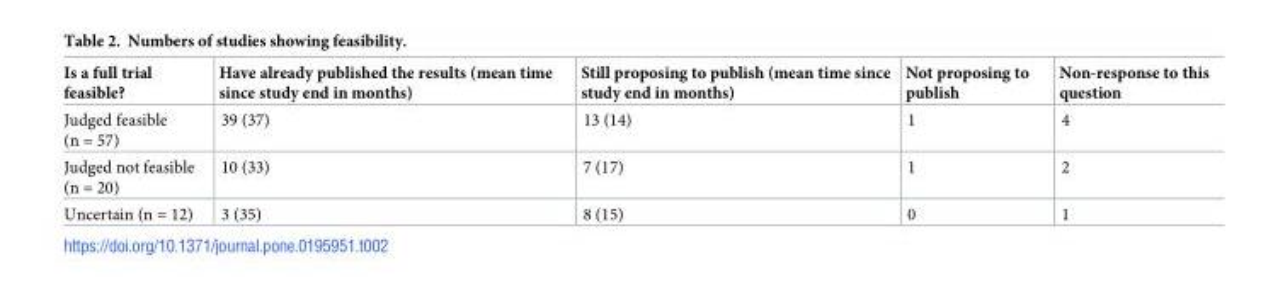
<table><thead><tr><td>Is a full trial feasible?</td><td>Have already published the results (mean time since study end in months)</td><td>Still proposing to publish (mean time since study end in months)</td><td>Not proposing to publish</td><td>Non-response to this question</td></tr></thead><tbody><tr><td>Judged feasible (n = 57)</td><td>39 (37)</td><td>13 (14)</td><td>1</td><td>4</td></tr><tr><td>Judged not feasible (n = 20)</td><td>10 (33)</td><td>7 (17)</td><td>1</td><td>2</td></tr><tr><td>Uncertain (n = 12)</td><td>3 (35)</td><td>8 (15)</td><td>0</td><td>1</td></tr></tbody></table>